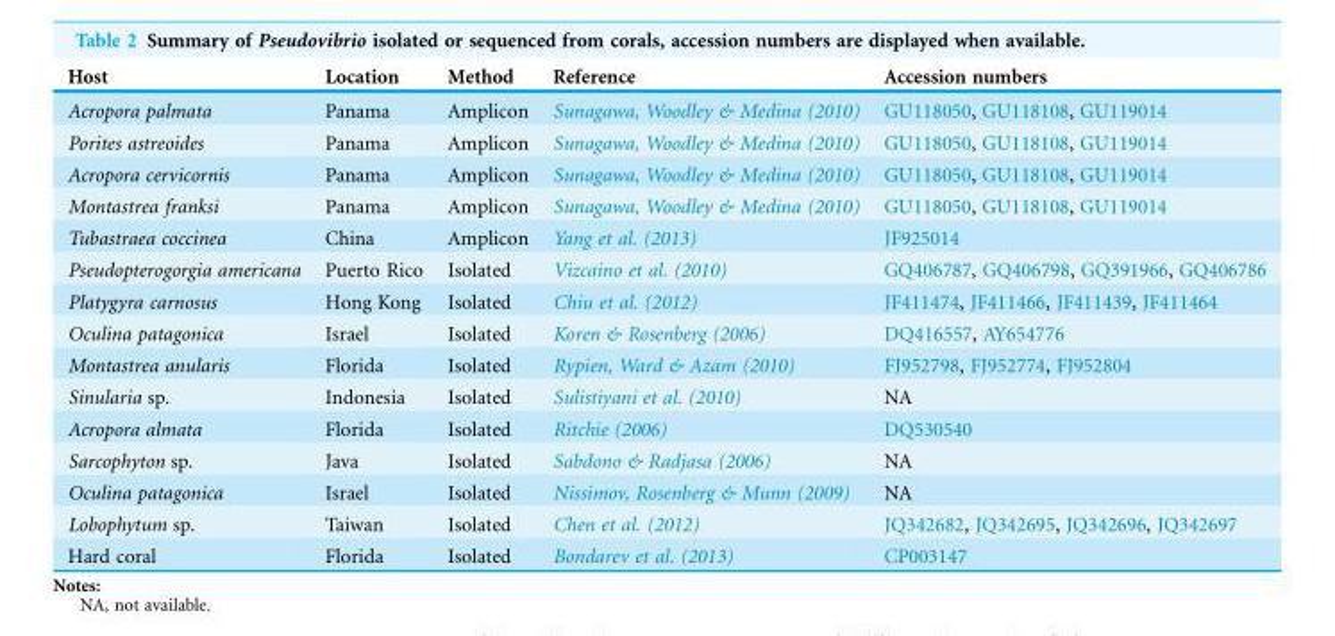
<table><thead><tr><td>Host</td><td>Location</td><td>Method</td><td>Reference</td><td>Accession numbers</td></tr></thead><tbody><tr><td>Acropora palmata</td><td>Panama</td><td>Amplicon</td><td>Sunagawa, Woodley &amp; Medina (2010)</td><td>GU118050, GU118108, GU119014</td></tr><tr><td>Porites astreoides</td><td>Panama</td><td>Amplicon</td><td>Sunagawa, Woodley &amp; Medina (2010)</td><td>GU118050, GU118108, GU119014</td></tr><tr><td>Acropora cervicornis</td><td>Panama</td><td>Amplicon</td><td>Sunagawa, Woodley &amp; Medina (2010)</td><td>GU118050, GU118108, GU119014</td></tr><tr><td>Montastrea franksi</td><td>Panama</td><td>Amplicon</td><td>Sunagawa, Woodley &amp; Medina (2010)</td><td>GU118050, GU118108, GU119014</td></tr><tr><td>Tubastraea coccinea</td><td>China</td><td>Amplicon</td><td>Yang et al. (2013)</td><td>JF925014</td></tr><tr><td>Pseudopterogorgia americana</td><td>Puerto Rico</td><td>Isolated</td><td>Vizcaino et al. (2010)</td><td>GQ406787, GQ406798, GQ391966, GQ406786</td></tr><tr><td>Platygyra carnosus</td><td>Hong Kong</td><td>Isolated</td><td>Chiu et al. (2012)</td><td>JF411474, JF411466, JF411439, JF411464</td></tr><tr><td>Oculina patagonica</td><td>Israel</td><td>Isolated</td><td>Koren &amp; Rosenberg (2006)</td><td>DQ416557, AY654776</td></tr><tr><td>Montastrea anularis</td><td>Florida</td><td>Isolated</td><td>Rypien, Ward &amp; Azam (2010)</td><td>FJ952798, FJ952774, FJ952804</td></tr><tr><td>Sinularia sp.</td><td>Indonesia</td><td>Isolated</td><td>Sulistiyani et al. (2010)</td><td>NA</td></tr><tr><td>Acropora almata</td><td>Florida</td><td>Isolated</td><td>Ritchie (2006)</td><td>DQ530540</td></tr><tr><td>Sarcophyton sp.</td><td>Java</td><td>Isolated</td><td>Sabdono &amp; Radjasa (2006)</td><td>NA</td></tr><tr><td>Oculina patagonica</td><td>Israel</td><td>Isolated</td><td>Nissimov, Rosenberg &amp; Munn (2009)</td><td>NA</td></tr><tr><td>Lobophytum sp.</td><td>Taiwan</td><td>Isolated</td><td>Chen et al. (2012)</td><td>JQ342682, JQ342695, JQ342696, JQ342697</td></tr><tr><td>Hard coral</td><td>Florida</td><td>Isolated</td><td>Bondarev et al. (2013)</td><td>CP003147</td></tr></tbody></table>